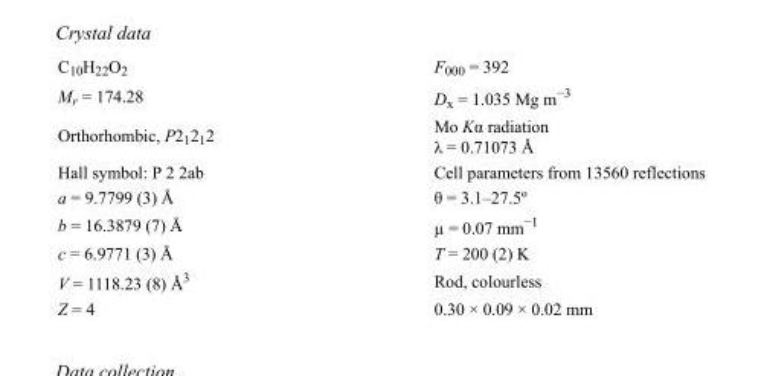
<table><tbody><tr><td>C<sub>10</sub>H<sub>22</sub>O<sub>2</sub></td><td>F000 = 392</td></tr><tr><td>M<sub>r</sub> = 174.28</td><td>D<sub>x</sub> = 1.035 Mg m<sup>−3</sup></td></tr><tr><td>Orthorhombic, P2<sub>1</sub>2<sub>1</sub>2</td><td>Mo Kα radiation λ = 0.71073 Å</td></tr><tr><td>Hall symbol: P 2 2ab</td><td>Cell parameters from 13560 reflections</td></tr><tr><td>a = 9.7799 (3) Å</td><td>θ = 3.1–27.5º</td></tr><tr><td>b = 16.3879 (7) Å</td><td>µ = 0.07 mm<sup>−1</sup></td></tr><tr><td>c = 6.9771 (3) Å</td><td>T = 200 (2) K</td></tr><tr><td>V = 1118.23 (8) Å<sup>3</sup></td><td>Rod, colourless</td></tr><tr><td>Z = 4</td><td>0.30 × 0.09 × 0.02 mm</td></tr></tbody></table>